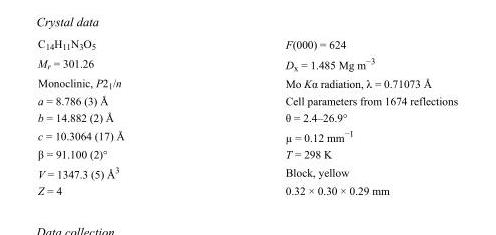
<table><tbody><tr><td>C<sub>14</sub>H<sub>11</sub>N<sub>3</sub>O<sub>5</sub></td><td>F(000) = 624</td></tr><tr><td>M<sub>r</sub> = 301.26</td><td>D<sub>x</sub> = 1.485 Mg m<sup>−3</sup></td></tr><tr><td>Monoclinic, P2<sub>1</sub>/n</td><td>Mo Kα radiation, λ = 0.71073 Å</td></tr><tr><td>a = 8.786 (3) Å</td><td>Cell parameters from 1674 reflections</td></tr><tr><td>b = 14.882 (2) Å</td><td>θ = 2.4–26.9°</td></tr><tr><td>c = 10.3064 (17) Å</td><td>µ = 0.12 mm<sup>−1</sup></td></tr><tr><td>β = 91.100 (2)°</td><td>T = 298 K</td></tr><tr><td>V = 1347.3 (5) Å<sup>3</sup></td><td>Block, yellow</td></tr><tr><td>Z = 4</td><td>0.32 × 0.30 × 0.29 mm</td></tr></tbody></table>